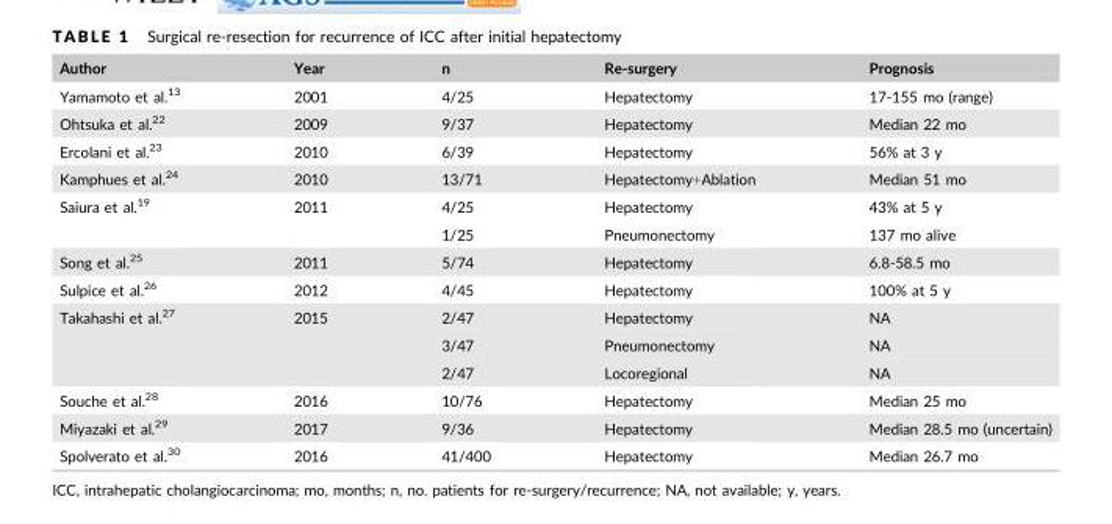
<table><thead><tr><td>Author</td><td>Year</td><td>n</td><td>Re-surgery</td><td>Prognosis</td></tr></thead><tbody><tr><td>Yamamoto et al.<sup>13</sup></td><td>2001</td><td>4/25</td><td>Hepatectomy</td><td>17-155 mo (range)</td></tr><tr><td>Ohtsuka et al.<sup>22</sup></td><td>2009</td><td>9/37</td><td>Hepatectomy</td><td>Median 22 mo</td></tr><tr><td>Ercolani et al.<sup>23</sup></td><td>2010</td><td>6/39</td><td>Hepatectomy</td><td>56% at 3 y</td></tr><tr><td>Kamphues et al.<sup>24</sup></td><td>2010</td><td>13/71</td><td>Hepatectomy+Ablation</td><td>Median 51 mo</td></tr><tr><td rowspan="2">Saiura et al.<sup>19</sup></td><td rowspan="2">2011</td><td>4/25</td><td>Hepatectomy</td><td>43% at 5 y</td></tr><tr><td>1/25</td><td>Pneumonectomy</td><td>137 mo alive</td></tr><tr><td>Song et al.<sup>25</sup></td><td>2011</td><td>5/74</td><td>Hepatectomy</td><td>6.8-58.5 mo</td></tr><tr><td>Sulpice et al.<sup>26</sup></td><td>2012</td><td>4/45</td><td>Hepatectomy</td><td>100% at 5 y</td></tr><tr><td rowspan="3">Takahashi et al.<sup>27</sup></td><td rowspan="3">2015</td><td>2/47</td><td>Hepatectomy</td><td>NA</td></tr><tr><td>3/47</td><td>Pneumonectomy</td><td>NA</td></tr><tr><td>2/47</td><td>Locoregional</td><td>NA</td></tr><tr><td>Souche et al.<sup>28</sup></td><td>2016</td><td>10/76</td><td>Hepatectomy</td><td>Median 25 mo</td></tr><tr><td>Miyazaki et al.<sup>29</sup></td><td>2017</td><td>9/36</td><td>Hepatectomy</td><td>Median 28.5 mo (uncertain)</td></tr><tr><td>Spolverato et al.<sup>30</sup></td><td>2016</td><td>41/400</td><td>Hepatectomy</td><td>Median 26.7 mo</td></tr></tbody></table>